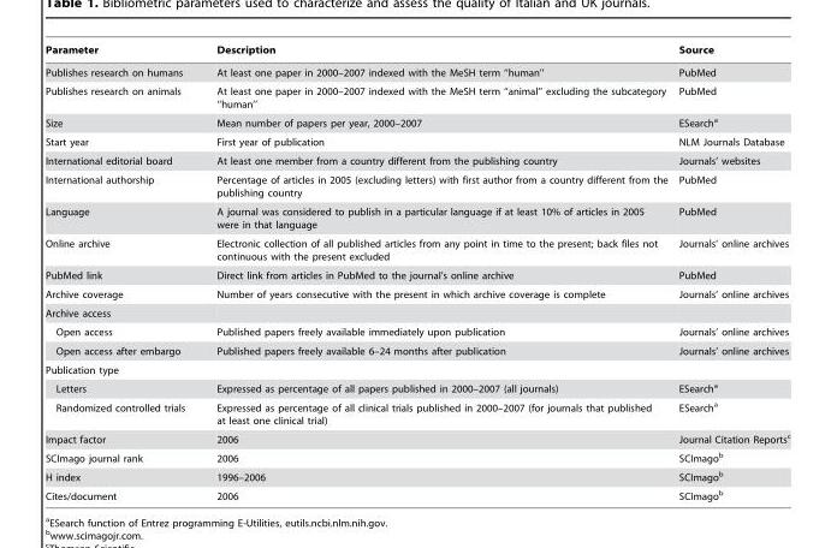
<table><thead><tr><td>Parameter</td><td>Description</td><td>Source</td></tr></thead><tbody><tr><td>Publishes research on humans</td><td>At least one paper in 2000–2007 indexed with the MeSH term ‘‘human’’</td><td>PubMed</td></tr><tr><td>Publishes research on animals</td><td>At least one paper in 2000–2007 indexed with the MeSH term ‘‘animal’’ excluding the subcategory ‘‘human’’</td><td>PubMed</td></tr><tr><td>Size</td><td>Mean number of papers per year, 2000–2007</td><td>ESearch<sup>a</sup></td></tr><tr><td>Start year</td><td>First year of publication</td><td>NLM Journals Database</td></tr><tr><td>International editorial board</td><td>At least one member from a country different from the publishing country</td><td>Journals’ websites</td></tr><tr><td>International authorship</td><td>Percentage of articles in 2005 (excluding letters) with first author from a country different from the publishing country</td><td>PubMed</td></tr><tr><td>Language</td><td>A journal was considered to publish in a particular language if at least 10% of articles in 2005 were in that language</td><td>PubMed</td></tr><tr><td>Online archive</td><td>Electronic collection of all published articles from any point in time to the present; back files not continuous with the present excluded</td><td>Journals’ online archives</td></tr><tr><td>PubMed link</td><td>Direct link from articles in PubMed to the journal’s online archive</td><td>PubMed</td></tr><tr><td>Archive coverage</td><td>Number of years consecutive with the present in which archive coverage is complete</td><td>Journals’ online archives</td></tr><tr><td colspan="3">Archive access</td></tr><tr><td>Open access</td><td>Published papers freely available immediately upon publication</td><td>Journals’ online archives</td></tr><tr><td>Open access after embargo</td><td>Published papers freely available 6–24 months after publication</td><td>Journals’ online archives</td></tr><tr><td colspan="3">Publication type</td></tr><tr><td>Letters</td><td>Expressed as percentage of all papers published in 2000–2007 (all journals)</td><td>ESearch<sup>a</sup></td></tr><tr><td>Randomized controlled trials</td><td>Expressed as percentage of all clinical trials published in 2000–2007 (for journals that published at least one clinical trial)</td><td>ESearch<sup>a</sup></td></tr><tr><td>Impact factor</td><td>2006</td><td>Journal Citation Reports<sup>c</sup></td></tr><tr><td>SCImago journal rank</td><td>2006</td><td>SCImago<sup>b</sup></td></tr><tr><td>H index</td><td>1996–2006</td><td>SCImago<sup>b</sup></td></tr><tr><td>Cites/document</td><td>2006</td><td>SCImago<sup>b</sup></td></tr></tbody></table>